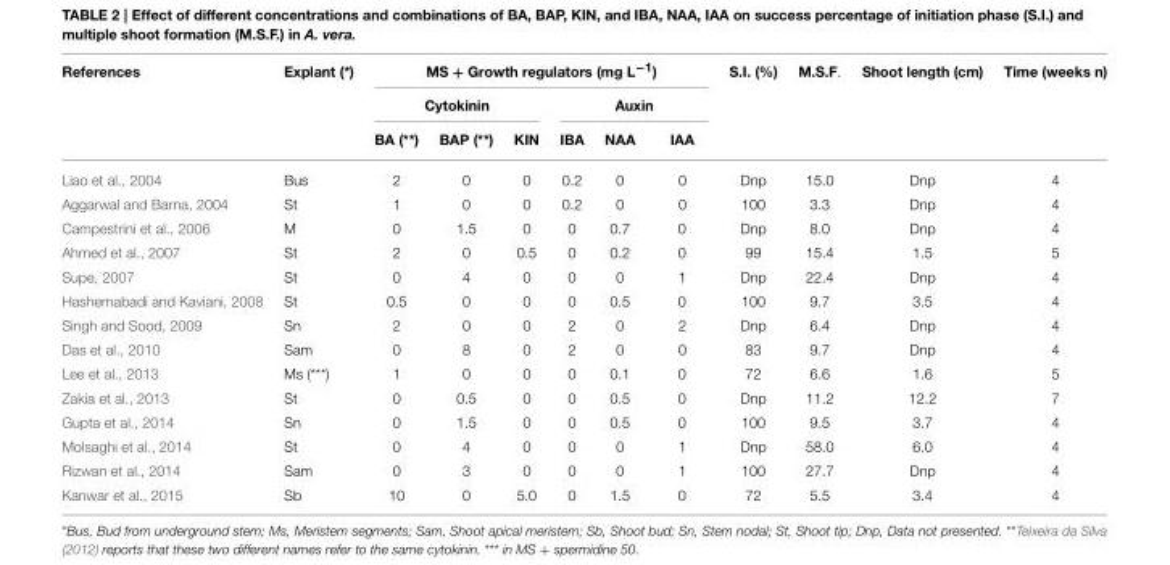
<table><thead><tr><td rowspan="3">References</td><td rowspan="3">Explant (*)</td><td colspan="6">MS + Growth regulators (mg L<sup>−1</sup>)</td><td rowspan="3">S.I. (%)</td><td rowspan="3">M.S.F.</td><td rowspan="3">Shoot length (cm)</td><td rowspan="3">Time (weeks n)</td></tr><tr><td colspan="3">Cytokinin</td><td colspan="3">Auxin</td></tr><tr><td>BA (**)</td><td>BAP (**)</td><td>KIN</td><td>IBA</td><td>NAA</td><td>IAA</td></tr></thead><tbody><tr><td>Liao et al., 2004</td><td>Bus</td><td>2</td><td>0</td><td>0</td><td>0.2</td><td>0</td><td>0</td><td>Dnp</td><td>15.0</td><td>Dnp</td><td>4</td></tr><tr><td>Aggarwal and Barna, 2004</td><td>St</td><td>1</td><td>0</td><td>0</td><td>0.2</td><td>0</td><td>0</td><td>100</td><td>3.3</td><td>Dnp</td><td>4</td></tr><tr><td>Campestrini et al., 2006</td><td>M</td><td>0</td><td>1.5</td><td>0</td><td>0</td><td>0.7</td><td>0</td><td>Dnp</td><td>8.0</td><td>Dnp</td><td>4</td></tr><tr><td>Ahmed et al., 2007</td><td>St</td><td>2</td><td>0</td><td>0.5</td><td>0</td><td>0.2</td><td>0</td><td>99</td><td>15.4</td><td>1.5</td><td>5</td></tr><tr><td>Supe, 2007</td><td>St</td><td>0</td><td>4</td><td>0</td><td>0</td><td>0</td><td>1</td><td>Dnp</td><td>22.4</td><td>Dnp</td><td>4</td></tr><tr><td>Hashemabadi and Kaviani, 2008</td><td>St</td><td>0.5</td><td>0</td><td>0</td><td>0</td><td>0.5</td><td>0</td><td>100</td><td>9.7</td><td>3.5</td><td>4</td></tr><tr><td>Singh and Sood, 2009</td><td>Sn</td><td>2</td><td>0</td><td>0</td><td>2</td><td>0</td><td>2</td><td>Dnp</td><td>6.4</td><td>Dnp</td><td>4</td></tr><tr><td>Das et al., 2010</td><td>Sam</td><td>0</td><td>8</td><td>0</td><td>2</td><td>0</td><td>0</td><td>83</td><td>9.7</td><td>Dnp</td><td>4</td></tr><tr><td>Lee et al., 2013</td><td>Ms (***)</td><td>1</td><td>0</td><td>0</td><td>0</td><td>0.1</td><td>0</td><td>72</td><td>6.6</td><td>1.6</td><td>5</td></tr><tr><td>Zakia et al., 2013</td><td>St</td><td>0</td><td>0.5</td><td>0</td><td>0</td><td>0.5</td><td>0</td><td>Dnp</td><td>11.2</td><td>12.2</td><td>7</td></tr><tr><td>Gupta et al., 2014</td><td>Sn</td><td>0</td><td>1.5</td><td>0</td><td>0</td><td>0.5</td><td>0</td><td>100</td><td>9.5</td><td>3.7</td><td>4</td></tr><tr><td>Molsaghi et al., 2014</td><td>St</td><td>0</td><td>4</td><td>0</td><td>0</td><td>0</td><td>1</td><td>Dnp</td><td>58.0</td><td>6.0</td><td>4</td></tr><tr><td>Rizwan et al., 2014</td><td>Sam</td><td>0</td><td>3</td><td>0</td><td>0</td><td>0</td><td>1</td><td>100</td><td>27.7</td><td>Dnp</td><td>4</td></tr><tr><td>Kanwar et al., 2015</td><td>Sb</td><td>10</td><td>0</td><td>5.0</td><td>0</td><td>1.5</td><td>0</td><td>72</td><td>5.5</td><td>3.4</td><td>4</td></tr></tbody></table>